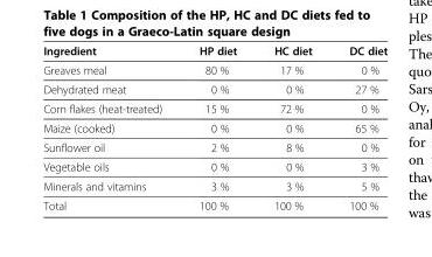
<table><thead><tr><td>Ingredient</td><td>HP diet</td><td>HC diet</td><td>DC diet</td></tr></thead><tbody><tr><td>Greaves meal</td><td>80 %</td><td>17 %</td><td>0 %</td></tr><tr><td>Dehydrated meat</td><td>0 %</td><td>0 %</td><td>27 %</td></tr><tr><td>Corn flakes (heat-treated)</td><td>15 %</td><td>72 %</td><td>0 %</td></tr><tr><td>Maize (cooked)</td><td>0 %</td><td>0 %</td><td>65 %</td></tr><tr><td>Sunflower oil</td><td>2 %</td><td>8 %</td><td>0 %</td></tr><tr><td>Vegetable oils</td><td>0 %</td><td>0 %</td><td>3 %</td></tr><tr><td>Minerals and vitamins</td><td>3 %</td><td>3 %</td><td>5 %</td></tr><tr><td>Total</td><td>100 %</td><td>100 %</td><td>100 %</td></tr></tbody></table>